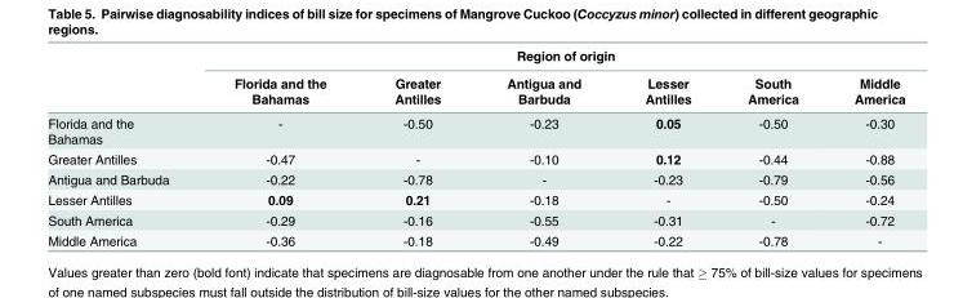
<table><thead><tr><td rowspan="2"></td><td colspan="6">Region of origin</td></tr><tr><td>Florida and the Bahamas</td><td>Greater Antilles</td><td>Antigua and Barbuda</td><td>Lesser Antilles</td><td>South America</td><td>Middle America</td></tr></thead><tbody><tr><td>Florida and the Bahamas</td><td>-</td><td>-0.50</td><td>-0.23</td><td>0.05</td><td>-0.50</td><td>-0.30</td></tr><tr><td>Greater Antilles</td><td>-0.47</td><td>-</td><td>-0.10</td><td>0.12</td><td>-0.44</td><td>-0.88</td></tr><tr><td>Antigua and Barbuda</td><td>-0.22</td><td>-0.78</td><td>-</td><td>-0.23</td><td>-0.79</td><td>-0.56</td></tr><tr><td>Lesser Antilles</td><td>0.09</td><td>0.21</td><td>-0.18</td><td>-</td><td>-0.50</td><td>-0.24</td></tr><tr><td>South America</td><td>-0.29</td><td>-0.16</td><td>-0.55</td><td>-0.31</td><td>-</td><td>-0.72</td></tr><tr><td>Middle America</td><td>-0.36</td><td>-0.18</td><td>-0.49</td><td>-0.22</td><td>-0.78</td><td>-</td></tr></tbody></table>